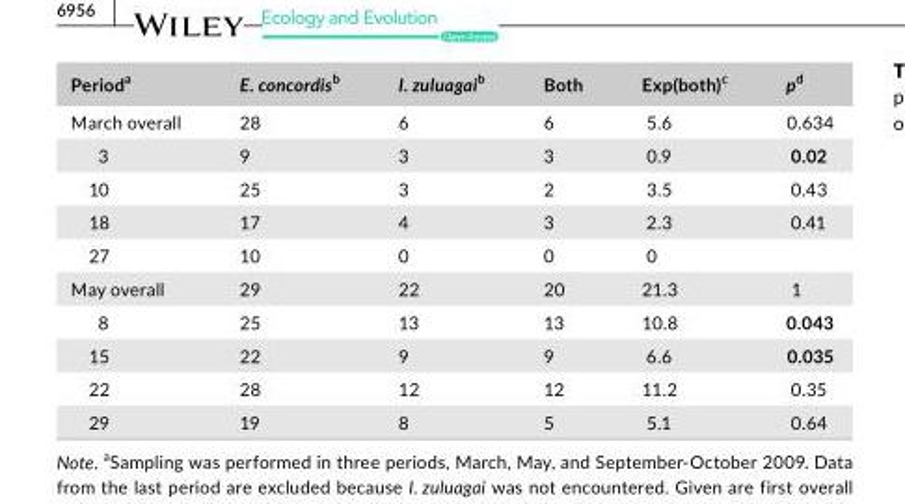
<table><thead><tr><td>Period<sup>a</sup></td><td>E. concordisb</td><td>I. zuluagaib</td><td>Both</td><td>Exp(both)<sup>c</sup></td><td>pd</td></tr></thead><tbody><tr><td>March overall</td><td>28</td><td>6</td><td>6</td><td>5.6</td><td>0.634</td></tr><tr><td>3</td><td>9</td><td>3</td><td>3</td><td>0.9</td><td>0.02</td></tr><tr><td>10</td><td>25</td><td>3</td><td>2</td><td>3.5</td><td>0.43</td></tr><tr><td>18</td><td>17</td><td>4</td><td>3</td><td>2.3</td><td>0.41</td></tr><tr><td>27</td><td>10</td><td>0</td><td>0</td><td>0</td><td></td></tr><tr><td>May overall</td><td>29</td><td>22</td><td>20</td><td>21.3</td><td>1</td></tr><tr><td>8</td><td>25</td><td>13</td><td>13</td><td>10.8</td><td>0.043</td></tr><tr><td>15</td><td>22</td><td>9</td><td>9</td><td>6.6</td><td>0.035</td></tr><tr><td>22</td><td>28</td><td>12</td><td>12</td><td>11.2</td><td>0.35</td></tr><tr><td>29</td><td>19</td><td>8</td><td>5</td><td>5.1</td><td>0.64</td></tr></tbody></table>